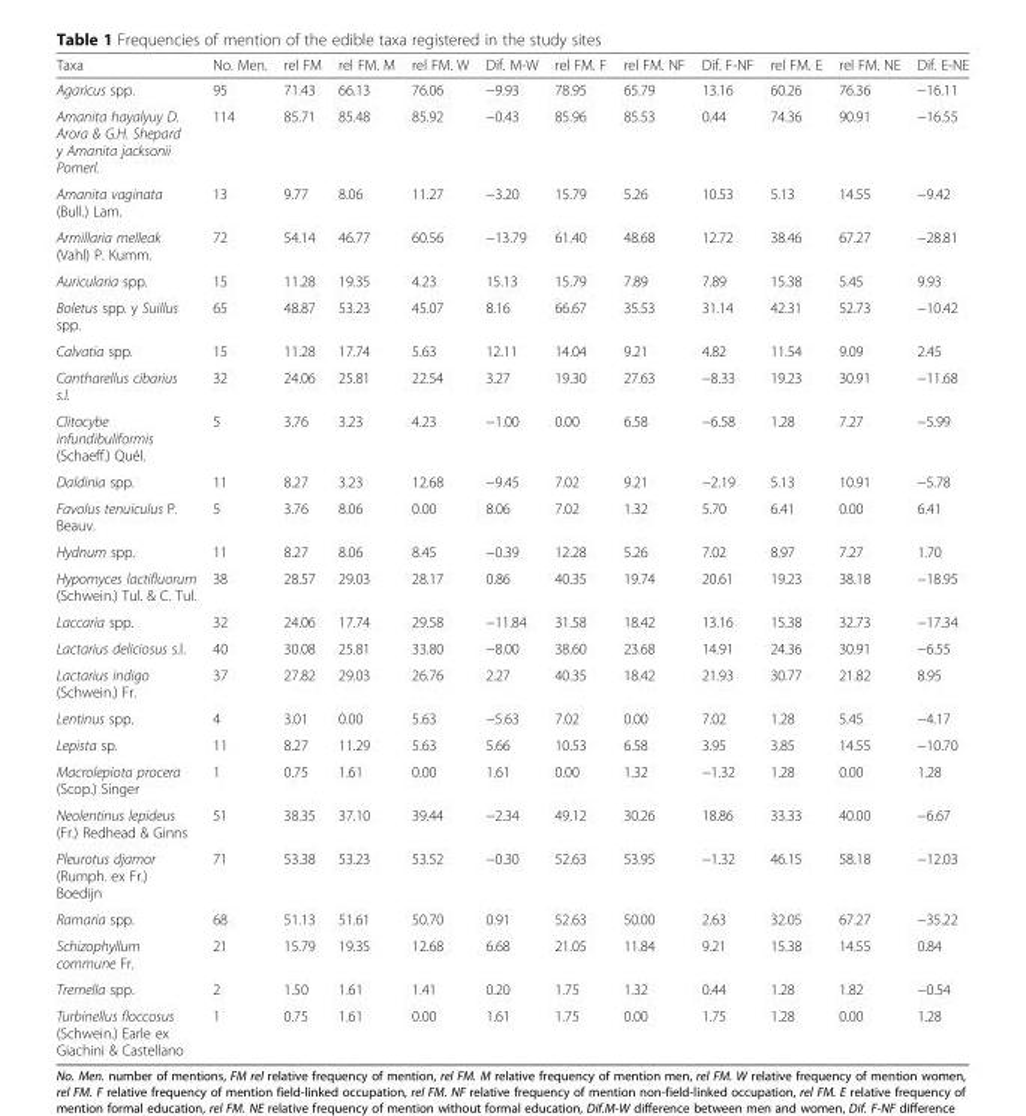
<table><thead><tr><td>Taxa</td><td>No. Men.</td><td>rel FM</td><td>rel FM. M</td><td>rel FM. W</td><td>Dif. M-W</td><td>rel FM. F</td><td>rel FM. NF</td><td>Dif. F-NF</td><td>rel FM. E</td><td>rel FM. NE</td><td>Dif. E-NE</td></tr></thead><tbody><tr><td>Agaricus spp.</td><td>95</td><td>71.43</td><td>66.13</td><td>76.06</td><td>−9.93</td><td>78.95</td><td>65.79</td><td>13.16</td><td>60.26</td><td>76.36</td><td>−16.11</td></tr><tr><td>Amanita hayalyuy D. Arora &amp; G.H. Shepard y Amanita jacksonii Pomerl.</td><td>114</td><td>85.71</td><td>85.48</td><td>85.92</td><td>−0.43</td><td>85.96</td><td>85.53</td><td>0.44</td><td>74.36</td><td>90.91</td><td>−16.55</td></tr><tr><td>Amanita vaginata (Bull.) Lam.</td><td>13</td><td>9.77</td><td>8.06</td><td>11.27</td><td>−3.20</td><td>15.79</td><td>5.26</td><td>10.53</td><td>5.13</td><td>14.55</td><td>−9.42</td></tr><tr><td>Armillaria melleak (Vahl) P. Kumm.</td><td>72</td><td>54.14</td><td>46.77</td><td>60.56</td><td>−13.79</td><td>61.40</td><td>48.68</td><td>12.72</td><td>38.46</td><td>67.27</td><td>−28.81</td></tr><tr><td>Auricularia spp.</td><td>15</td><td>11.28</td><td>19.35</td><td>4.23</td><td>15.13</td><td>15.79</td><td>7.89</td><td>7.89</td><td>15.38</td><td>5.45</td><td>9.93</td></tr><tr><td>Boletus spp. y Suillus spp.</td><td>65</td><td>48.87</td><td>53.23</td><td>45.07</td><td>8.16</td><td>66.67</td><td>35.53</td><td>31.14</td><td>42.31</td><td>52.73</td><td>−10.42</td></tr><tr><td>Calvatia spp.</td><td>15</td><td>11.28</td><td>17.74</td><td>5.63</td><td>12.11</td><td>14.04</td><td>9.21</td><td>4.82</td><td>11.54</td><td>9.09</td><td>2.45</td></tr><tr><td>Cantharellus cibarius s.l.</td><td>32</td><td>24.06</td><td>25.81</td><td>22.54</td><td>3.27</td><td>19.30</td><td>27.63</td><td>−8.33</td><td>19.23</td><td>30.91</td><td>−11.68</td></tr><tr><td>Clitocybe infundibuliformis (Schaeff.) Quél.</td><td>5</td><td>3.76</td><td>3.23</td><td>4.23</td><td>−1.00</td><td>0.00</td><td>6.58</td><td>−6.58</td><td>1.28</td><td>7.27</td><td>−5.99</td></tr><tr><td>Daldinia spp.</td><td>11</td><td>8.27</td><td>3.23</td><td>12.68</td><td>−9.45</td><td>7.02</td><td>9.21</td><td>−2.19</td><td>5.13</td><td>10.91</td><td>−5.78</td></tr><tr><td>Favolus tenuiculus P. Beauv.</td><td>5</td><td>3.76</td><td>8.06</td><td>0.00</td><td>8.06</td><td>7.02</td><td>1.32</td><td>5.70</td><td>6.41</td><td>0.00</td><td>6.41</td></tr><tr><td>Hydnum spp.</td><td>11</td><td>8.27</td><td>8.06</td><td>8.45</td><td>−0.39</td><td>12.28</td><td>5.26</td><td>7.02</td><td>8.97</td><td>7.27</td><td>1.70</td></tr><tr><td>Hypomyces lactifluorum (Schwein.) Tul. &amp; C. Tul.</td><td>38</td><td>28.57</td><td>29.03</td><td>28.17</td><td>0.86</td><td>40.35</td><td>19.74</td><td>20.61</td><td>19.23</td><td>38.18</td><td>−18.95</td></tr><tr><td>Laccaria spp.</td><td>32</td><td>24.06</td><td>17.74</td><td>29.58</td><td>−11.84</td><td>31.58</td><td>18.42</td><td>13.16</td><td>15.38</td><td>32.73</td><td>−17.34</td></tr><tr><td>Lactarius deliciosus s.l.</td><td>40</td><td>30.08</td><td>25.81</td><td>33.80</td><td>−8.00</td><td>38.60</td><td>23.68</td><td>14.91</td><td>24.36</td><td>30.91</td><td>−6.55</td></tr><tr><td>Lactarius indigo (Schwein.) Fr.</td><td>37</td><td>27.82</td><td>29.03</td><td>26.76</td><td>2.27</td><td>40.35</td><td>18.42</td><td>21.93</td><td>30.77</td><td>21.82</td><td>8.95</td></tr><tr><td>Lentinus spp.</td><td>4</td><td>3.01</td><td>0.00</td><td>5.63</td><td>−5.63</td><td>7.02</td><td>0.00</td><td>7.02</td><td>1.28</td><td>5.45</td><td>−4.17</td></tr><tr><td>Lepista sp.</td><td>11</td><td>8.27</td><td>11.29</td><td>5.63</td><td>5.66</td><td>10.53</td><td>6.58</td><td>3.95</td><td>3.85</td><td>14.55</td><td>−10.70</td></tr><tr><td>Macrolepiota procera (Scop.) Singer</td><td>1</td><td>0.75</td><td>1.61</td><td>0.00</td><td>1.61</td><td>0.00</td><td>1.32</td><td>−1.32</td><td>1.28</td><td>0.00</td><td>1.28</td></tr><tr><td>Neolentinus lepideus (Fr.) Redhead &amp; Ginns</td><td>51</td><td>38.35</td><td>37.10</td><td>39.44</td><td>−2.34</td><td>49.12</td><td>30.26</td><td>18.86</td><td>33.33</td><td>40.00</td><td>−6.67</td></tr><tr><td>Pleurotus djamor (Rumph. ex Fr.) Boedijn</td><td>71</td><td>53.38</td><td>53.23</td><td>53.52</td><td>−0.30</td><td>52.63</td><td>53.95</td><td>−1.32</td><td>46.15</td><td>58.18</td><td>−12.03</td></tr><tr><td>Ramaria spp.</td><td>68</td><td>51.13</td><td>51.61</td><td>50.70</td><td>0.91</td><td>52.63</td><td>50.00</td><td>2.63</td><td>32.05</td><td>67.27</td><td>−35.22</td></tr><tr><td>Schizophyllum commune Fr.</td><td>21</td><td>15.79</td><td>19.35</td><td>12.68</td><td>6.68</td><td>21.05</td><td>11.84</td><td>9.21</td><td>15.38</td><td>14.55</td><td>0.84</td></tr><tr><td>Tremella spp.</td><td>2</td><td>1.50</td><td>1.61</td><td>1.41</td><td>0.20</td><td>1.75</td><td>1.32</td><td>0.44</td><td>1.28</td><td>1.82</td><td>−0.54</td></tr><tr><td>Turbinellus floccosus (Schwein.) Earle ex Giachini &amp; Castellano</td><td>1</td><td>0.75</td><td>1.61</td><td>0.00</td><td>1.61</td><td>1.75</td><td>0.00</td><td>1.75</td><td>1.28</td><td>0.00</td><td>1.28</td></tr></tbody></table>